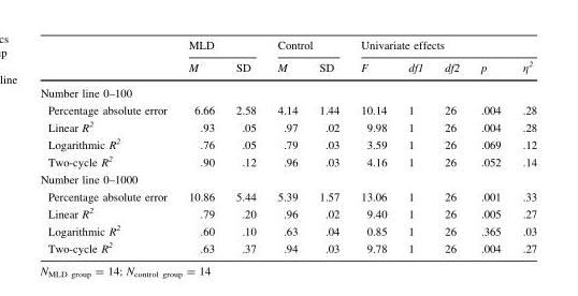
<table><thead><tr><td rowspan="2"></td><td colspan="2">MLD</td><td colspan="2">Control</td><td colspan="5">Univariate effects</td></tr><tr><td>M</td><td>SD</td><td>M</td><td>SD</td><td>F</td><td>df1</td><td>df2</td><td>p</td><td>η<sup>2</sup></td></tr></thead><tbody><tr><td colspan="10">Number line 0–100</td></tr><tr><td>Percentage absolute error</td><td>6.66</td><td>2.58</td><td>4.14</td><td>1.44</td><td>10.14</td><td>1</td><td>26</td><td>.004</td><td>.28</td></tr><tr><td>Linear R<sup>2</sup></td><td>.93</td><td>.05</td><td>.97</td><td>.02</td><td>9.98</td><td>1</td><td>26</td><td>.004</td><td>.28</td></tr><tr><td>Logarithmic R<sup>2</sup></td><td>.76</td><td>.05</td><td>.79</td><td>.03</td><td>3.59</td><td>1</td><td>26</td><td>.069</td><td>.12</td></tr><tr><td>Two-cycle R<sup>2</sup></td><td>.90</td><td>.12</td><td>.96</td><td>.03</td><td>4.16</td><td>1</td><td>26</td><td>.052</td><td>.14</td></tr><tr><td colspan="10">Number line 0–1000</td></tr><tr><td>Percentage absolute error</td><td>10.86</td><td>5.44</td><td>5.39</td><td>1.57</td><td>13.06</td><td>1</td><td>26</td><td>.001</td><td>.33</td></tr><tr><td>Linear R<sup>2</sup></td><td>.79</td><td>.20</td><td>.96</td><td>.02</td><td>9.40</td><td>1</td><td>26</td><td>.005</td><td>.27</td></tr><tr><td>Logarithmic R<sup>2</sup></td><td>.60</td><td>.10</td><td>.63</td><td>.04</td><td>0.85</td><td>1</td><td>26</td><td>.365</td><td>.03</td></tr><tr><td>Two-cycle R<sup>2</sup></td><td>.63</td><td>.37</td><td>.94</td><td>.03</td><td>9.78</td><td>1</td><td>26</td><td>.004</td><td>.27</td></tr></tbody></table>